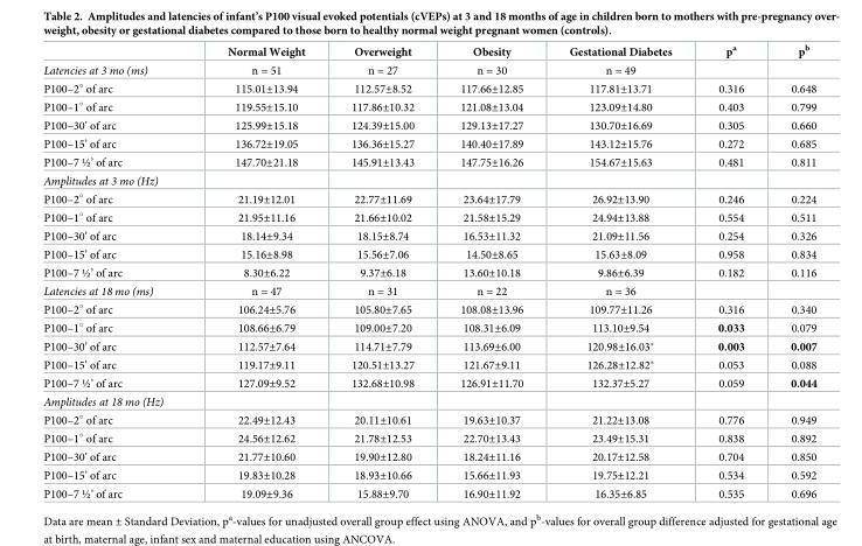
<table><thead><tr><td></td><td>Normal Weight</td><td>Overweight</td><td>Obesity</td><td>Gestational Diabetes</td><td>p<sup>a</sup></td><td>p<sup>b</sup></td></tr></thead><tbody><tr><td>Latencies at 3 mo (ms)</td><td>n = 51</td><td>n = 27</td><td>n = 30</td><td>n = 49</td><td></td><td></td></tr><tr><td>P100–2<sup>○</sup> of arc</td><td>115.01±13.94</td><td>112.57±8.52</td><td>117.66±12.85</td><td>117.81±13.71</td><td>0.316</td><td>0.648</td></tr><tr><td>P100–1<sup>○</sup> of arc</td><td>119.55±15.10</td><td>117.86±10.32</td><td>121.08±13.04</td><td>123.09±14.80</td><td>0.403</td><td>0.799</td></tr><tr><td>P100–30’ of arc</td><td>125.99±15.18</td><td>124.39±15.00</td><td>129.13±17.27</td><td>130.70±16.69</td><td>0.305</td><td>0.660</td></tr><tr><td>P100–15’ of arc</td><td>136.72±19.05</td><td>136.36±15.27</td><td>140.40±17.89</td><td>143.12±15.76</td><td>0.272</td><td>0.685</td></tr><tr><td>P100–7 ½’ of arc</td><td>147.70±21.18</td><td>145.91±13.43</td><td>147.75±16.26</td><td>154.67±15.63</td><td>0.481</td><td>0.811</td></tr><tr><td colspan="7">Amplitudes at 3 mo (Hz)</td></tr><tr><td>P100–2<sup>○</sup> of arc</td><td>21.19±12.01</td><td>22.77±11.69</td><td>23.64±17.79</td><td>26.92±13.90</td><td>0.246</td><td>0.224</td></tr><tr><td>P100–1<sup>○</sup> of arc</td><td>21.95±11.16</td><td>21.66±10.02</td><td>21.58±15.29</td><td>24.94±13.88</td><td>0.554</td><td>0.511</td></tr><tr><td>P100–30’ of arc</td><td>18.14±9.34</td><td>18.15±8.74</td><td>16.53±11.32</td><td>21.09±11.56</td><td>0.254</td><td>0.326</td></tr><tr><td>P100–15’ of arc</td><td>15.16±8.98</td><td>15.56±7.06</td><td>14.50±8.65</td><td>15.63±8.09</td><td>0.958</td><td>0.834</td></tr><tr><td>P100–7 ½’ of arc</td><td>8.30±6.22</td><td>9.37±6.18</td><td>13.60±10.18</td><td>9.86±6.39</td><td>0.182</td><td>0.116</td></tr><tr><td>Latencies at 18 mo (ms)</td><td>n = 47</td><td>n = 31</td><td>n = 22</td><td>n = 36</td><td></td><td></td></tr><tr><td>P100–2<sup>○</sup> of arc</td><td>106.24±5.76</td><td>105.80±7.65</td><td>108.08±13.96</td><td>109.77±11.26</td><td>0.316</td><td>0.340</td></tr><tr><td>P100–1<sup>○</sup> of arc</td><td>108.66±6.79</td><td>109.00±7.20</td><td>108.31±6.09</td><td>113.10±9.54</td><td>0.033</td><td>0.079</td></tr><tr><td>P100–30’ of arc</td><td>112.57±7.64</td><td>114.71±7.79</td><td>113.69±6.00</td><td>120.98±16.03*</td><td>0.003</td><td>0.007</td></tr><tr><td>P100–15’ of arc</td><td>119.17±9.11</td><td>120.51±13.27</td><td>121.67±9.11</td><td>126.28±12.82*</td><td>0.053</td><td>0.088</td></tr><tr><td>P100–7 ½’ of arc</td><td>127.09±9.52</td><td>132.68±10.98</td><td>126.91±11.70</td><td>132.37±5.27</td><td>0.059</td><td>0.044</td></tr><tr><td colspan="7">Amplitudes at 18 mo (Hz)</td></tr><tr><td>P100–2<sup>○</sup> of arc</td><td>22.49±12.43</td><td>20.11±10.61</td><td>19.63±10.37</td><td>21.22±13.08</td><td>0.776</td><td>0.949</td></tr><tr><td>P100–1<sup>○</sup> of arc</td><td>24.56±12.62</td><td>21.78±12.53</td><td>22.70±13.43</td><td>23.49±15.31</td><td>0.838</td><td>0.892</td></tr><tr><td>P100–30’ of arc</td><td>21.77±10.60</td><td>19.90±12.80</td><td>18.24±11.16</td><td>20.17±12.58</td><td>0.704</td><td>0.850</td></tr><tr><td>P100–15’ of arc</td><td>19.83±10.28</td><td>18.93±10.66</td><td>15.66±11.93</td><td>19.75±12.21</td><td>0.534</td><td>0.592</td></tr><tr><td>P100–7 ½’ of arc</td><td>19.09±9.36</td><td>15.88±9.70</td><td>16.90±11.92</td><td>16.35±6.85</td><td>0.535</td><td>0.696</td></tr></tbody></table>